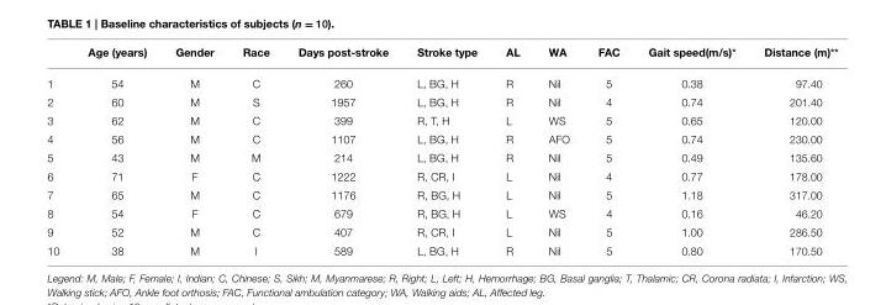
<table><thead><tr><td></td><td>Age (years)</td><td>Gender</td><td>Race</td><td>Days post-stroke</td><td>Stroke type</td><td>AL</td><td>WA</td><td>FAC</td><td>Gait speed(m/s)*</td><td>Distance (m)**</td></tr></thead><tbody><tr><td>1</td><td>54</td><td>M</td><td>C</td><td>260</td><td>L, BG, H</td><td>R</td><td>Nil</td><td>5</td><td>0.38</td><td>97.40</td></tr><tr><td>2</td><td>60</td><td>M</td><td>S</td><td>1957</td><td>L, BG, H</td><td>R</td><td>Nil</td><td>4</td><td>0.74</td><td>201.40</td></tr><tr><td>3</td><td>62</td><td>M</td><td>C</td><td>399</td><td>R, T, H</td><td>L</td><td>WS</td><td>5</td><td>0.65</td><td>120.00</td></tr><tr><td>4</td><td>56</td><td>M</td><td>C</td><td>1107</td><td>L, BG, H</td><td>R</td><td>AFO</td><td>5</td><td>0.74</td><td>230.00</td></tr><tr><td>5</td><td>43</td><td>M</td><td>M</td><td>214</td><td>L, BG, H</td><td>R</td><td>Nil</td><td>5</td><td>0.49</td><td>135.60</td></tr><tr><td>6</td><td>71</td><td>F</td><td>C</td><td>1222</td><td>R, CR, I</td><td>L</td><td>Nil</td><td>4</td><td>0.77</td><td>178.00</td></tr><tr><td>7</td><td>65</td><td>M</td><td>C</td><td>1176</td><td>R, BG, H</td><td>L</td><td>Nil</td><td>5</td><td>1.18</td><td>317.00</td></tr><tr><td>8</td><td>54</td><td>F</td><td>C</td><td>679</td><td>R, BG, H</td><td>L</td><td>WS</td><td>4</td><td>0.16</td><td>46.20</td></tr><tr><td>9</td><td>52</td><td>M</td><td>C</td><td>407</td><td>R, CR, I</td><td>L</td><td>Nil</td><td>5</td><td>1.00</td><td>286.50</td></tr><tr><td>10</td><td>38</td><td>M</td><td>I</td><td>589</td><td>L, BG, H</td><td>R</td><td>Nil</td><td>5</td><td>0.80</td><td>170.50</td></tr></tbody></table>